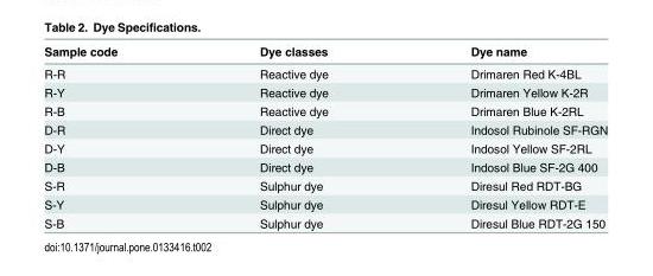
<table><thead><tr><td>Sample code</td><td>Dye classes</td><td>Dye name</td></tr></thead><tbody><tr><td>R-R</td><td>Reactive dye</td><td>Drimaren Red K-4BL</td></tr><tr><td>R-Y</td><td>Reactive dye</td><td>Drimaren Yellow K-2R</td></tr><tr><td>R-B</td><td>Reactive dye</td><td>Drimaren Blue K-2RL</td></tr><tr><td>D-R</td><td>Direct dye</td><td>Indosol Rubinole SF-RGN</td></tr><tr><td>D-Y</td><td>Direct dye</td><td>Indosol Yellow SF-2RL</td></tr><tr><td>D-B</td><td>Direct dye</td><td>Indosol Blue SF-2G 400</td></tr><tr><td>S-R</td><td>Sulphur dye</td><td>Diresul Red RDT-BG</td></tr><tr><td>S-Y</td><td>Sulphur dye</td><td>Diresul Yellow RDT-E</td></tr><tr><td>S-B</td><td>Sulphur dye</td><td>Diresul Blue RDT-2G 150</td></tr></tbody></table>